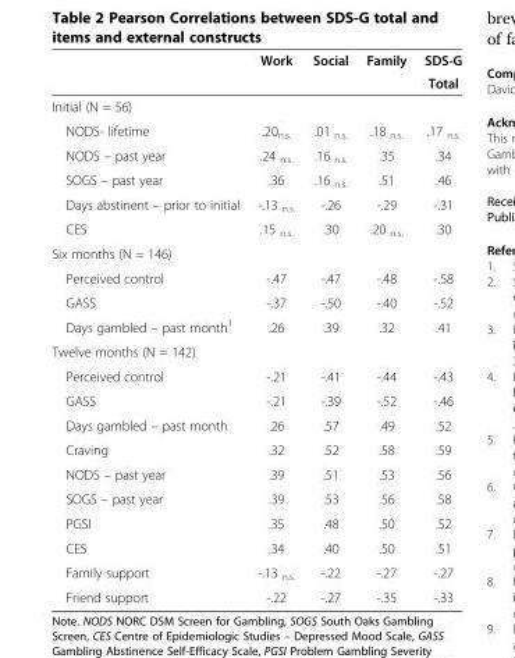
<table><thead><tr><td rowspan="2"></td><td rowspan="2">Work</td><td rowspan="2">Social</td><td rowspan="2">Family</td><td rowspan="2">SDS-G Total</td></tr><tr></tr></thead><tbody><tr><td colspan="5">Initial (N = 56)</td></tr><tr><td>NODS- lifetime</td><td>.20<sub>n.s.</sub></td><td>.01 <sub>n.s.</sub></td><td>.18 <sub>n.s.</sub></td><td>.17 <sub>n.s.</sub></td></tr><tr><td>NODS – past year</td><td>.24 <sub>n.s.</sub></td><td>.16 <sub>n.s.</sub></td><td>.35</td><td>.34</td></tr><tr><td>SOGS – past year</td><td>.36</td><td>.16 <sub>n.s.</sub></td><td>.51</td><td>.46</td></tr><tr><td>Days abstinent – prior to initial</td><td>-.13 <sub>n.s.</sub></td><td>-.26</td><td>-.29</td><td>-.31</td></tr><tr><td>CES</td><td>.15 <sub>n.s.</sub></td><td>.30</td><td>.20 <sub>n.s.</sub></td><td>.30</td></tr><tr><td colspan="5">Six months (N = 146)</td></tr><tr><td>Perceived control</td><td>-.47</td><td>-.47</td><td>-.48</td><td>-.58</td></tr><tr><td>GASS</td><td>-.37</td><td>-.50</td><td>-.40</td><td>-.52</td></tr><tr><td>Days gambled – past month<sup>1</sup></td><td>.26</td><td>.39</td><td>.32</td><td>.41</td></tr><tr><td colspan="5">Twelve months (N = 142)</td></tr><tr><td>Perceived control</td><td>-.21</td><td>-.41</td><td>-.44</td><td>-.43</td></tr><tr><td>GASS</td><td>-.21</td><td>-.39</td><td>-.52</td><td>-.46</td></tr><tr><td>Days gambled – past month</td><td>.26</td><td>.57</td><td>.49</td><td>.52</td></tr><tr><td>Craving</td><td>.32</td><td>.52</td><td>.58</td><td>.59</td></tr><tr><td>NODS – past year</td><td>.39</td><td>.51</td><td>.53</td><td>.56</td></tr><tr><td>SOGS – past year</td><td>.39</td><td>.53</td><td>.56</td><td>.58</td></tr><tr><td>PGSI</td><td>.35</td><td>.48</td><td>.50</td><td>.52</td></tr><tr><td>CES</td><td>.34</td><td>.40</td><td>.50</td><td>.51</td></tr><tr><td>Family support</td><td>-.13 <sub>n.s.</sub></td><td>-.22</td><td>-.27</td><td>-.27</td></tr><tr><td>Friend support</td><td>-.22</td><td>-.27</td><td>-.35</td><td>-.33</td></tr></tbody></table>